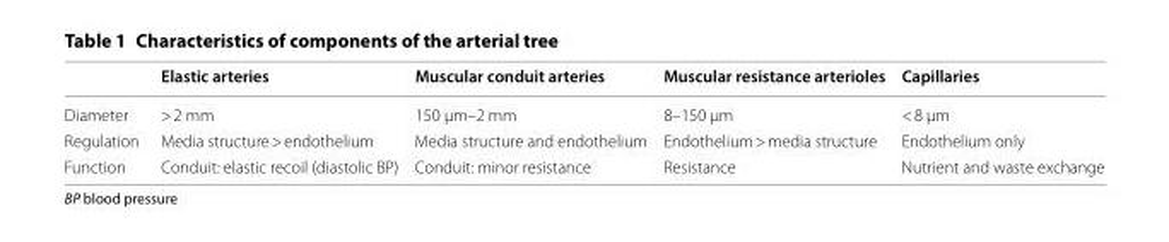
<table><thead><tr><td></td><td>Elastic arteries</td><td>Muscular conduit arteries</td><td>Muscular resistance arterioles</td><td>Capillaries</td></tr></thead><tbody><tr><td>Diameter</td><td>&gt; 2 mm</td><td>150 µm–2 mm</td><td>8–150 µm</td><td>&lt; 8 µm</td></tr><tr><td>Regulation</td><td>Media structure &gt; endothelium</td><td>Media structure and endothelium</td><td>Endothelium &gt; media structure</td><td>Endothelium only</td></tr><tr><td>Function</td><td>Conduit: elastic recoil (diastolic BP)</td><td>Conduit: minor resistance</td><td>Resistance</td><td>Nutrient and waste exchange</td></tr></tbody></table>